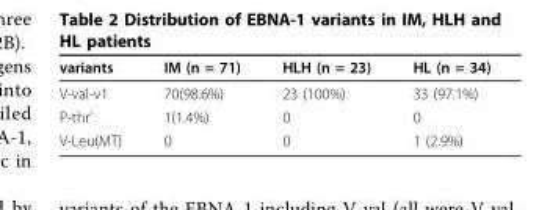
<table><thead><tr><td>variants</td><td>IM (n = 71)</td><td>HLH (n = 23)</td><td>HL (n = 34)</td></tr></thead><tbody><tr><td>V-val-v1</td><td>70(98.6%)</td><td>23 (100%)</td><td>33 (97.1%)</td></tr><tr><td>P-thr’</td><td>1(1.4%)</td><td>0</td><td>0</td></tr><tr><td>V-Leu(MT)</td><td>0</td><td>0</td><td>1 (2.9%)</td></tr></tbody></table>